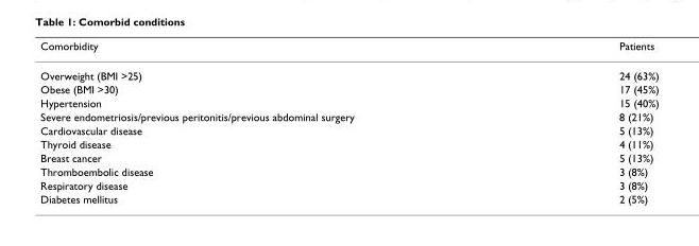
<table><thead><tr><td>Comorbidity</td><td>Patients</td></tr></thead><tbody><tr><td>Overweight (BMI &gt;25)</td><td>24 (63%)</td></tr><tr><td>Obese (BMI &gt;30)</td><td>17 (45%)</td></tr><tr><td>Hypertension</td><td>15 (40%)</td></tr><tr><td>Severe endometriosis/previous peritonitis/previous abdominal surgery</td><td>8 (21%)</td></tr><tr><td>Cardiovascular disease</td><td>5 (13%)</td></tr><tr><td>Thyroid disease</td><td>4 (11%)</td></tr><tr><td>Breast cancer</td><td>5 (13%)</td></tr><tr><td>Thromboembolic disease</td><td>3 (8%)</td></tr><tr><td>Respiratory disease</td><td>3 (8%)</td></tr><tr><td>Diabetes mellitus</td><td>2 (5%)</td></tr></tbody></table>